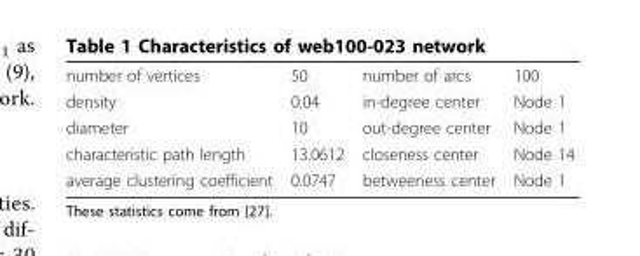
<table><tbody><tr><td>number of vertices</td><td>50</td><td>number of arcs</td><td>100</td></tr><tr><td>density</td><td>0.04</td><td>in-degree center</td><td>Node 1</td></tr><tr><td>diameter</td><td>10</td><td>out-degree center</td><td>Node 1</td></tr><tr><td>characteristic path length</td><td>13.0612</td><td>closeness center</td><td>Node 14</td></tr><tr><td>average clustering coefficient</td><td>0.0747</td><td>betweeness center</td><td>Node 1</td></tr></tbody></table>